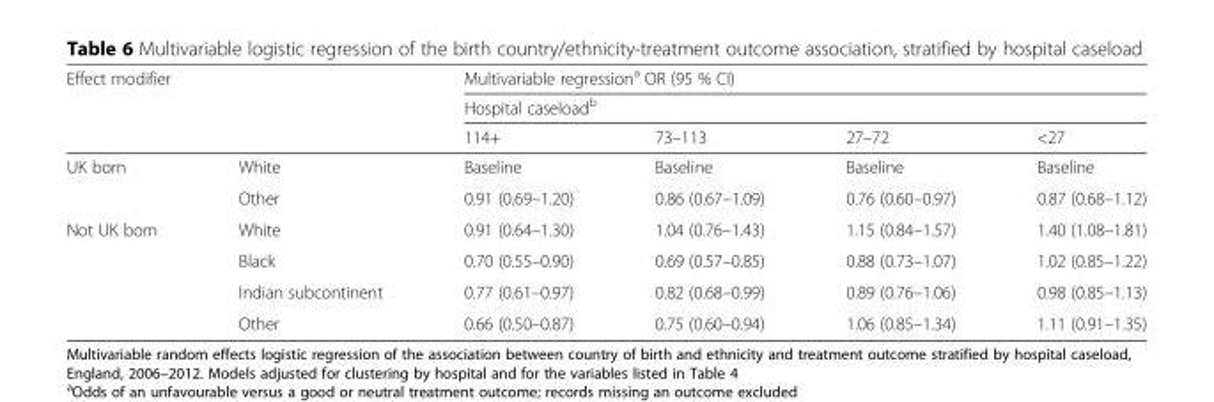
<table><thead><tr><td rowspan="3" colspan="2">Effect modifier</td><td rowspan="2" colspan="4">Multivariable regression<sup>a</sup> OR (95 % CI) Hospital caseload<sup>b</sup></td></tr><tr></tr><tr><td rowspan="2">114+ Baseline</td><td rowspan="2">73–113 Baseline</td><td rowspan="2">27–72 Baseline</td><td rowspan="2">&lt;27 Baseline</td></tr><tr><td>UK born</td><td>White</td></tr></thead><tbody><tr><td></td><td>Other</td><td>0.91 (0.69–1.20)</td><td>0.86 (0.67–1.09)</td><td>0.76 (0.60–0.97)</td><td>0.87 (0.68–1.12)</td></tr><tr><td rowspan="4">Not UK born</td><td>White</td><td>0.91 (0.64–1.30)</td><td>1.04 (0.76–1.43)</td><td>1.15 (0.84–1.57)</td><td>1.40 (1.08–1.81)</td></tr><tr><td>Black</td><td>0.70 (0.55–0.90)</td><td>0.69 (0.57–0.85)</td><td>0.88 (0.73–1.07)</td><td>1.02 (0.85–1.22)</td></tr><tr><td>Indian subcontinent</td><td>0.77 (0.61–0.97)</td><td>0.82 (0.68–0.99)</td><td>0.89 (0.76–1.06)</td><td>0.98 (0.85–1.13)</td></tr><tr><td>Other</td><td>0.66 (0.50–0.87)</td><td>0.75 (0.60–0.94)</td><td>1.06 (0.85–1.34)</td><td>1.11 (0.91–1.35)</td></tr></tbody></table>